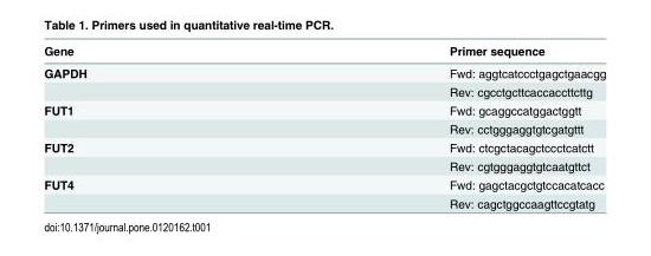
<table><thead><tr><td>Gene</td><td>Primer sequence</td></tr></thead><tbody><tr><td rowspan="2">GAPDH</td><td>Fwd: aggtcatccctgagctgaacgg</td></tr><tr><td>Rev: cgcctgcttcaccaccttcttg</td></tr><tr><td rowspan="2">FUT1</td><td>Fwd: gcaggccatggactggtt</td></tr><tr><td>Rev: cctgggaggtgtcgatgttt</td></tr><tr><td rowspan="2">FUT2</td><td>Fwd: ctcgctacagctccctcatctt</td></tr><tr><td>Rev: cgtgggaggtgtcaatgttct</td></tr><tr><td rowspan="2">FUT4</td><td>Fwd: gagctacgctgtccacatcacc</td></tr><tr><td>Rev: cagctggccaagttccgtatg</td></tr></tbody></table>